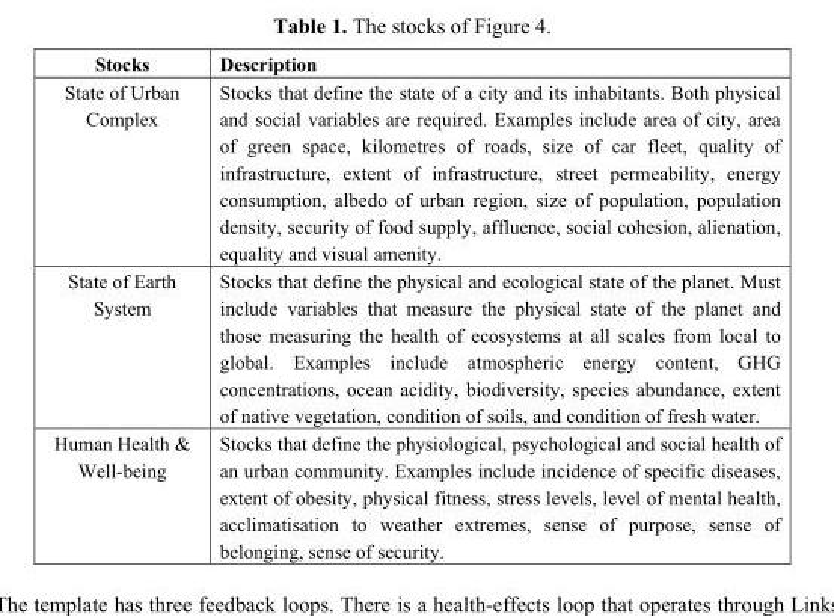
<table><thead><tr><td>Stocks</td><td>Description</td></tr></thead><tbody><tr><td>State of Urban Complex</td><td>Stocks that define the state of a city and its inhabitants. Both physical and social variables are required. Examples include area of city, area of green space, kilometres of roads, size of car fleet, quality of infrastructure, extent of infrastructure, street permeability, energy consumption, albedo of urban region, size of population, population density, security of food supply, affluence, social cohesion, alienation, equality and visual amenity.</td></tr><tr><td>State of Earth System</td><td>Stocks that define the physical and ecological state of the planet. Must include variables that measure the physical state of the planet and those measuring the health of ecosystems at all scales from local to global. Examples include atmospheric energy content, GHG concentrations, ocean acidity, biodiversity, species abundance, extent of native vegetation, condition of soils, and condition of fresh water.</td></tr><tr><td>Human Health &amp; Well-being</td><td>Stocks that define the physiological, psychological and social health of an urban community. Examples include incidence of specific diseases, extent of obesity, physical fitness, stress levels, level of mental health, acclimatisation to weather extremes, sense of purpose, sense of belonging, sense of security.</td></tr></tbody></table>